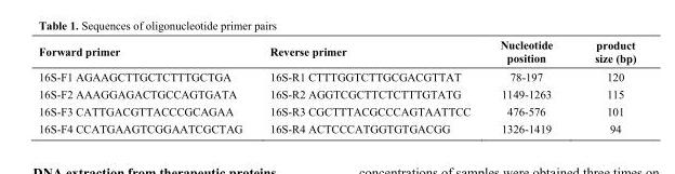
<table><thead><tr><td>Forward primer</td><td>Reverse primer</td><td>Nucleotide position</td><td>product size (bp)</td></tr></thead><tbody><tr><td>16S-F1 AGAAGCTTGCTCTTTGCTGA</td><td>16S-R1 CTTTGGTCTTGCGACGTTAT</td><td>78-197</td><td>120</td></tr><tr><td>16S-F2 AAAGGAGACTGCCAGTGATA</td><td>16S-R2 AGGTCGCTTCTCTTTGTATG</td><td>1149-1263</td><td>115</td></tr><tr><td>16S-F3 CATTGACGTTACCCGCAGAA</td><td>16S-R3 CGCTTTACGCCCAGTAATTCC</td><td>476-576</td><td>101</td></tr><tr><td>16S-F4 CCATGAAGTCGGAATCGCTAG</td><td>16S-R4 ACTCCCATGGTGTGACGG</td><td>1326-1419</td><td>94</td></tr></tbody></table>